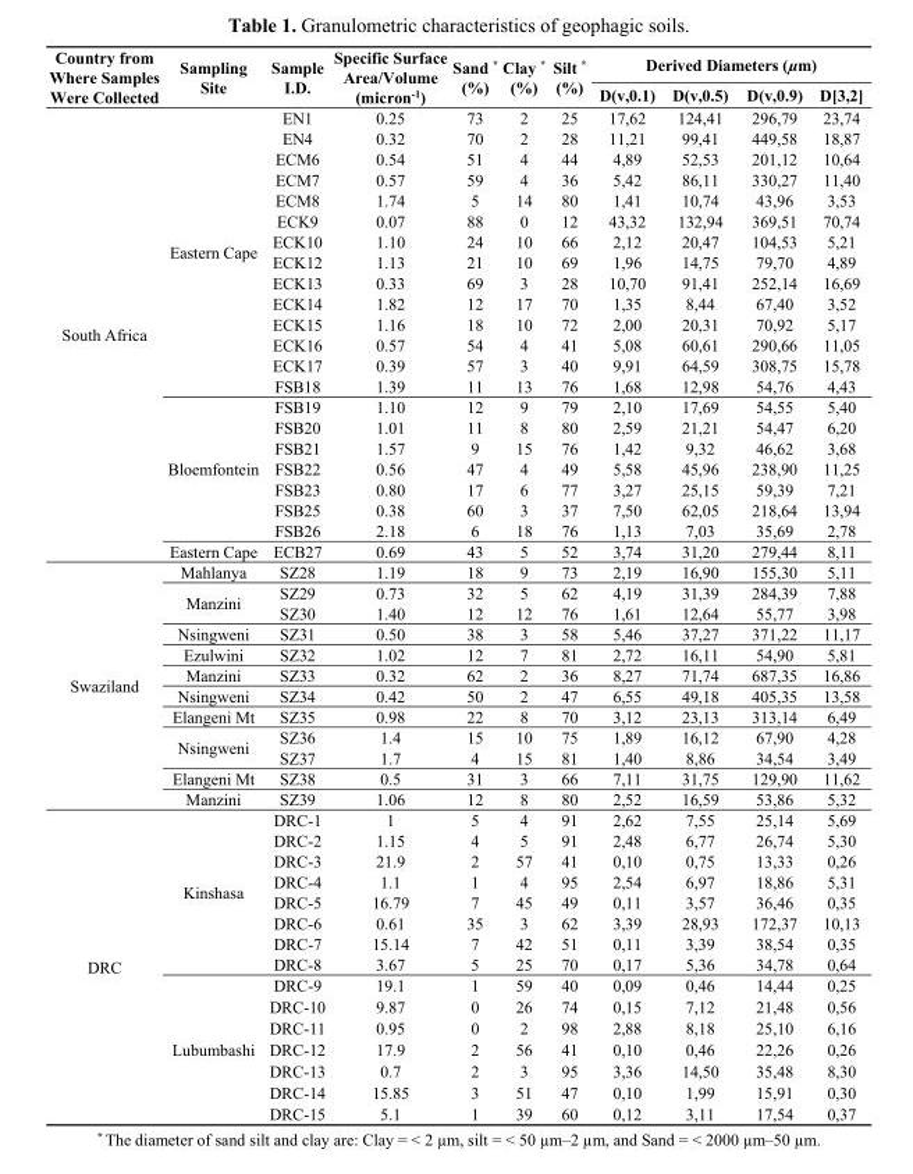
<table><thead><tr><td rowspan="2">Country from Where Samples Were Collected</td><td rowspan="2">Sampling Site</td><td rowspan="2">Sample I.D.</td><td rowspan="2">Specific Surface Area/Volume (micron<sup>-1</sup>)</td><td rowspan="2">Sand * (%)</td><td rowspan="2">Clay * (%)</td><td rowspan="2">Silt * (%)</td><td colspan="4">Derived Diameters (µm)</td></tr><tr><td>D(v,0.1)</td><td>D(v,0.5)</td><td>D(v,0.9)</td><td>D[3,2]</td></tr></thead><tbody><tr><td rowspan="22">South Africa</td><td rowspan="14">Eastern Cape</td><td>EN1</td><td>0.25</td><td>73</td><td>2</td><td>25</td><td>17,62</td><td>124,41</td><td>296,79</td><td>23,74</td></tr><tr><td>EN4</td><td>0.32</td><td>70</td><td>2</td><td>28</td><td>11,21</td><td>99,41</td><td>449,58</td><td>18,87</td></tr><tr><td>ECM6</td><td>0.54</td><td>51</td><td>4</td><td>44</td><td>4,89</td><td>52,53</td><td>201,12</td><td>10,64</td></tr><tr><td>ECM7</td><td>0.57</td><td>59</td><td>4</td><td>36</td><td>5,42</td><td>86,11</td><td>330,27</td><td>11,40</td></tr><tr><td>ECM8</td><td>1.74</td><td>5</td><td>14</td><td>80</td><td>1,41</td><td>10,74</td><td>43,96</td><td>3,53</td></tr><tr><td>ECK9</td><td>0.07</td><td>88</td><td>0</td><td>12</td><td>43,32</td><td>132,94</td><td>369,51</td><td>70,74</td></tr><tr><td>ECK10</td><td>1.10</td><td>24</td><td>10</td><td>66</td><td>2,12</td><td>20,47</td><td>104,53</td><td>5,21</td></tr><tr><td>ECK12</td><td>1.13</td><td>21</td><td>10</td><td>69</td><td>1,96</td><td>14,75</td><td>79,70</td><td>4,89</td></tr><tr><td>ECK13</td><td>0.33</td><td>69</td><td>3</td><td>28</td><td>10,70</td><td>91,41</td><td>252,14</td><td>16,69</td></tr><tr><td>ECK14</td><td>1.82</td><td>12</td><td>17</td><td>70</td><td>1,35</td><td>8,44</td><td>67,40</td><td>3,52</td></tr><tr><td>ECK15</td><td>1.16</td><td>18</td><td>10</td><td>72</td><td>2,00</td><td>20,31</td><td>70,92</td><td>5,17</td></tr><tr><td>ECK16</td><td>0.57</td><td>54</td><td>4</td><td>41</td><td>5,08</td><td>60,61</td><td>290,66</td><td>11,05</td></tr><tr><td>ECK17</td><td>0.39</td><td>57</td><td>3</td><td>40</td><td>9,91</td><td>64,59</td><td>308,75</td><td>15,78</td></tr><tr><td>FSB18</td><td>1.39</td><td>11</td><td>13</td><td>76</td><td>1,68</td><td>12,98</td><td>54,76</td><td>4,43</td></tr><tr><td rowspan="7">Bloemfontein</td><td>FSB19</td><td>1.10</td><td>12</td><td>9</td><td>79</td><td>2,10</td><td>17,69</td><td>54,55</td><td>5,40</td></tr><tr><td>FSB20</td><td>1.01</td><td>11</td><td>8</td><td>80</td><td>2,59</td><td>21,21</td><td>54,47</td><td>6,20</td></tr><tr><td>FSB21</td><td>1.57</td><td>9</td><td>15</td><td>76</td><td>1,42</td><td>9,32</td><td>46,62</td><td>3,68</td></tr><tr><td>FSB22</td><td>0.56</td><td>47</td><td>4</td><td>49</td><td>5,58</td><td>45,96</td><td>238,90</td><td>11,25</td></tr><tr><td>FSB23</td><td>0.80</td><td>17</td><td>6</td><td>77</td><td>3,27</td><td>25,15</td><td>59,39</td><td>7,21</td></tr><tr><td>FSB25</td><td>0.38</td><td>60</td><td>3</td><td>37</td><td>7,50</td><td>62,05</td><td>218,64</td><td>13,94</td></tr><tr><td>FSB26</td><td>2.18</td><td>6</td><td>18</td><td>76</td><td>1,13</td><td>7,03</td><td>35,69</td><td>2,78</td></tr><tr><td>Eastern Cape</td><td>ECB27</td><td>0.69</td><td>43</td><td>5</td><td>52</td><td>3,74</td><td>31,20</td><td>279,44</td><td>8,11</td></tr><tr><td rowspan="12">Swaziland</td><td>Mahlanya</td><td>SZ28</td><td>1.19</td><td>18</td><td>9</td><td>73</td><td>2,19</td><td>16,90</td><td>155,30</td><td>5,11</td></tr><tr><td rowspan="2">Manzini</td><td>SZ29</td><td>0.73</td><td>32</td><td>5</td><td>62</td><td>4,19</td><td>31,39</td><td>284,39</td><td>7,88</td></tr><tr><td>SZ30</td><td>1.40</td><td>12</td><td>12</td><td>76</td><td>1,61</td><td>12,64</td><td>55,77</td><td>3,98</td></tr><tr><td>Nsingweni</td><td>SZ31</td><td>0.50</td><td>38</td><td>3</td><td>58</td><td>5,46</td><td>37,27</td><td>371,22</td><td>11,17</td></tr><tr><td>Ezulwini</td><td>SZ32</td><td>1.02</td><td>12</td><td>7</td><td>81</td><td>2,72</td><td>16,11</td><td>54,90</td><td>5,81</td></tr><tr><td>Manzini</td><td>SZ33</td><td>0.32</td><td>62</td><td>2</td><td>36</td><td>8,27</td><td>71,74</td><td>687,35</td><td>16,86</td></tr><tr><td>Nsingweni</td><td>SZ34</td><td>0.42</td><td>50</td><td>2</td><td>47</td><td>6,55</td><td>49,18</td><td>405,35</td><td>13,58</td></tr><tr><td>Elangeni Mt</td><td>SZ35</td><td>0.98</td><td>22</td><td>8</td><td>70</td><td>3,12</td><td>23,13</td><td>313,14</td><td>6,49</td></tr><tr><td rowspan="2">Nsingweni</td><td>SZ36</td><td>1.4</td><td>15</td><td>10</td><td>75</td><td>1,89</td><td>16,12</td><td>67,90</td><td>4,28</td></tr><tr><td>SZ37</td><td>1.7</td><td>4</td><td>15</td><td>81</td><td>1,40</td><td>8,86</td><td>34,54</td><td>3,49</td></tr><tr><td>Elangeni Mt</td><td>SZ38</td><td>0.5</td><td>31</td><td>3</td><td>66</td><td>7,11</td><td>31,75</td><td>129,90</td><td>11,62</td></tr><tr><td>Manzini</td><td>SZ39</td><td>1.06</td><td>12</td><td>8</td><td>80</td><td>2,52</td><td>16,59</td><td>53,86</td><td>5,32</td></tr><tr><td rowspan="15">DRC</td><td rowspan="8">Kinshasa</td><td>DRC-1</td><td>1</td><td>5</td><td>4</td><td>91</td><td>2,62</td><td>7,55</td><td>25,14</td><td>5,69</td></tr><tr><td>DRC-2</td><td>1.15</td><td>4</td><td>5</td><td>91</td><td>2,48</td><td>6,77</td><td>26,74</td><td>5,30</td></tr><tr><td>DRC-3</td><td>21.9</td><td>2</td><td>57</td><td>41</td><td>0,10</td><td>0,75</td><td>13,33</td><td>0,26</td></tr><tr><td>DRC-4</td><td>1.1</td><td>1</td><td>4</td><td>95</td><td>2,54</td><td>6,97</td><td>18,86</td><td>5,31</td></tr><tr><td>DRC-5</td><td>16.79</td><td>7</td><td>45</td><td>49</td><td>0,11</td><td>3,57</td><td>36,46</td><td>0,35</td></tr><tr><td>DRC-6</td><td>0.61</td><td>35</td><td>3</td><td>62</td><td>3,39</td><td>28,93</td><td>172,37</td><td>10,13</td></tr><tr><td>DRC-7</td><td>15.14</td><td>7</td><td>42</td><td>51</td><td>0,11</td><td>3,39</td><td>38,54</td><td>0,35</td></tr><tr><td>DRC-8</td><td>3.67</td><td>5</td><td>25</td><td>70</td><td>0,17</td><td>5,36</td><td>34,78</td><td>0,64</td></tr><tr><td rowspan="7">Lubumbashi</td><td>DRC-9</td><td>19.1</td><td>1</td><td>59</td><td>40</td><td>0,09</td><td>0,46</td><td>14,44</td><td>0,25</td></tr><tr><td>DRC-10</td><td>9.87</td><td>0</td><td>26</td><td>74</td><td>0,15</td><td>7,12</td><td>21,48</td><td>0,56</td></tr><tr><td>DRC-11</td><td>0.95</td><td>0</td><td>2</td><td>98</td><td>2,88</td><td>8,18</td><td>25,10</td><td>6,16</td></tr><tr><td>DRC-12</td><td>17.9</td><td>2</td><td>56</td><td>41</td><td>0,10</td><td>0,46</td><td>22,26</td><td>0,26</td></tr><tr><td>DRC-13</td><td>0.7</td><td>2</td><td>3</td><td>95</td><td>3,36</td><td>14,50</td><td>35,48</td><td>8,30</td></tr><tr><td>DRC-14</td><td>15.85</td><td>3</td><td>51</td><td>47</td><td>0,10</td><td>1,99</td><td>15,91</td><td>0,30</td></tr><tr><td>DRC-15</td><td>5.1</td><td>1</td><td>39</td><td>60</td><td>0,12</td><td>3,11</td><td>17,54</td><td>0,37</td></tr></tbody></table>